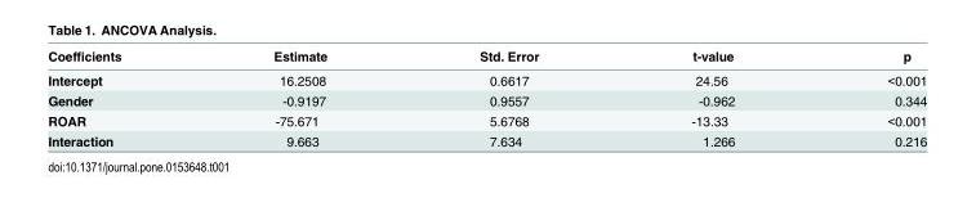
<table><thead><tr><td>Coefficients</td><td>Estimate</td><td>Std. Error</td><td>t-value</td><td>p</td></tr></thead><tbody><tr><td>Intercept</td><td>16.2508</td><td>0.6617</td><td>24.56</td><td>&lt;0.001</td></tr><tr><td>Gender</td><td>-0.9197</td><td>0.9557</td><td>-0.962</td><td>0.344</td></tr><tr><td>ROAR</td><td>-75.671</td><td>5.6768</td><td>-13.33</td><td>&lt;0.001</td></tr><tr><td>Interaction</td><td>9.663</td><td>7.634</td><td>1.266</td><td>0.216</td></tr></tbody></table>